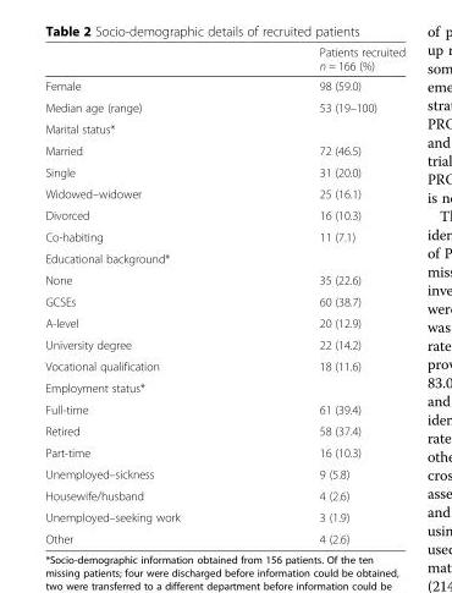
<table><thead><tr><td></td><td>Patients recruited n = 166 (%)</td></tr></thead><tbody><tr><td>Female</td><td>98 (59.0)</td></tr><tr><td>Median age (range)</td><td>53 (19–100)</td></tr><tr><td colspan="2">Marital status*</td></tr><tr><td>Married</td><td>72 (46.5)</td></tr><tr><td>Single</td><td>31 (20.0)</td></tr><tr><td>Widowed–widower</td><td>25 (16.1)</td></tr><tr><td>Divorced</td><td>16 (10.3)</td></tr><tr><td>Co-habiting</td><td>11 (7.1)</td></tr><tr><td colspan="2">Educational background*</td></tr><tr><td>None</td><td>35 (22.6)</td></tr><tr><td>GCSEs</td><td>60 (38.7)</td></tr><tr><td>A-level</td><td>20 (12.9)</td></tr><tr><td>University degree</td><td>22 (14.2)</td></tr><tr><td>Vocational qualification</td><td>18 (11.6)</td></tr><tr><td colspan="2">Employment status*</td></tr><tr><td>Full-time</td><td>61 (39.4)</td></tr><tr><td>Retired</td><td>58 (37.4)</td></tr><tr><td>Part-time</td><td>16 (10.3)</td></tr><tr><td>Unemployed–sickness</td><td>9 (5.8)</td></tr><tr><td>Housewife/husband</td><td>4 (2.6)</td></tr><tr><td>Unemployed–seeking work</td><td>3 (1.9)</td></tr><tr><td>Other</td><td>4 (2.6)</td></tr></tbody></table>